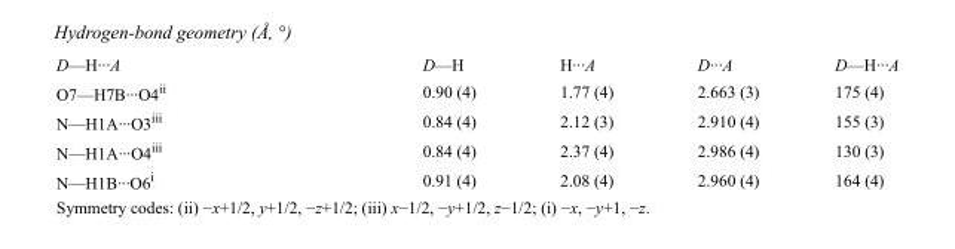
<table><tbody><tr><td>D—H···A</td><td>D—H</td><td>H···A</td><td>D···A</td><td>D—H···A</td></tr><tr><td>O7—H7B···O4<sup>ii</sup></td><td>0.90 (4)</td><td>1.77 (4)</td><td>2.663 (3)</td><td>175 (4)</td></tr><tr><td>N—H1A···O3<sup>iii</sup></td><td>0.84 (4)</td><td>2.12 (3)</td><td>2.910 (4)</td><td>155 (3)</td></tr><tr><td>N—H1A···O4<sup>iii</sup></td><td>0.84 (4)</td><td>2.37 (4)</td><td>2.986 (4)</td><td>130 (3)</td></tr><tr><td>N—H1B···O6<sup>i</sup></td><td>0.91 (4)</td><td>2.08 (4)</td><td>2.960 (4)</td><td>164 (4)</td></tr></tbody></table>